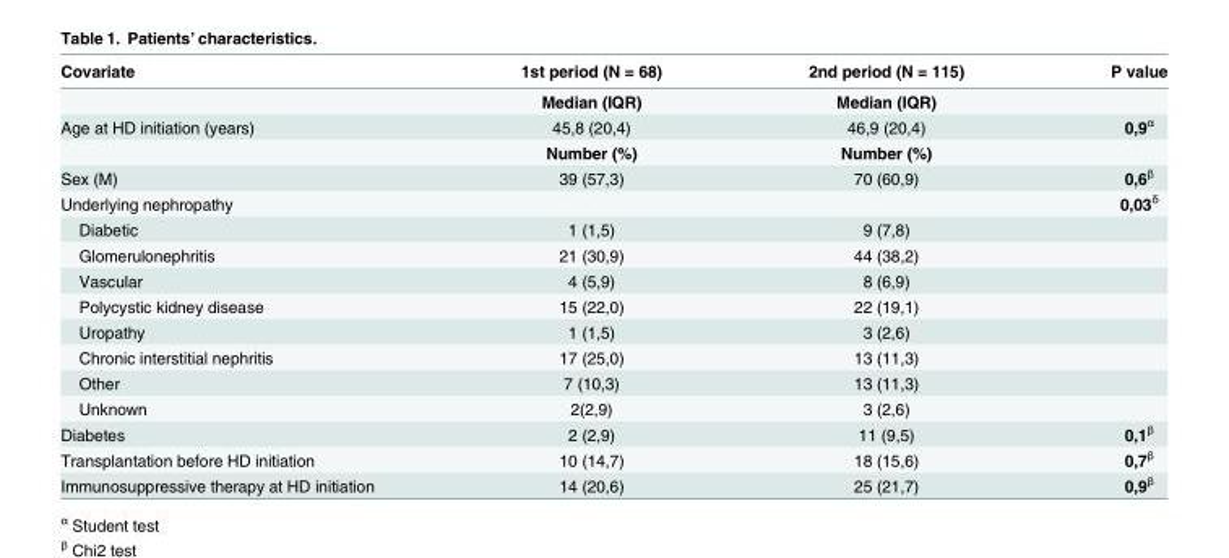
<table><thead><tr><td>Covariate</td><td>1st period (N = 68)</td><td>2nd period (N = 115)</td><td>P value</td></tr></thead><tbody><tr><td></td><td>Median (IQR)</td><td>Median (IQR)</td><td></td></tr><tr><td rowspan="2">Age at HD initiation (years)</td><td>45,8 (20,4)</td><td>46,9 (20,4)</td><td>0,9<sup>α</sup></td></tr><tr><td>Number (%)</td><td>Number (%)</td><td></td></tr><tr><td>Sex (M)</td><td>39 (57,3)</td><td>70 (60,9)</td><td>0,6<sup>β</sup></td></tr><tr><td>Underlying nephropathy</td><td></td><td></td><td>0,03<sup>δ</sup></td></tr><tr><td>Diabetic</td><td>1 (1,5)</td><td>9 (7,8)</td><td></td></tr><tr><td>Glomerulonephritis</td><td>21 (30,9)</td><td>44 (38,2)</td><td></td></tr><tr><td>Vascular</td><td>4 (5,9)</td><td>8 (6,9)</td><td></td></tr><tr><td>Polycystic kidney disease</td><td>15 (22,0)</td><td>22 (19,1)</td><td></td></tr><tr><td>Uropathy</td><td>1 (1,5)</td><td>3 (2,6)</td><td></td></tr><tr><td>Chronic interstitial nephritis</td><td>17 (25,0)</td><td>13 (11,3)</td><td></td></tr><tr><td>Other</td><td>7 (10,3)</td><td>13 (11,3)</td><td></td></tr><tr><td>Unknown</td><td>2(2,9)</td><td>3 (2,6)</td><td></td></tr><tr><td>Diabetes</td><td>2 (2,9)</td><td>11 (9,5)</td><td>0,1<sup>β</sup></td></tr><tr><td>Transplantation before HD initiation</td><td>10 (14,7)</td><td>18 (15,6)</td><td>0,7<sup>β</sup></td></tr><tr><td>Immunosuppressive therapy at HD initiation</td><td>14 (20,6)</td><td>25 (21,7)</td><td>0,9<sup>β</sup></td></tr></tbody></table>